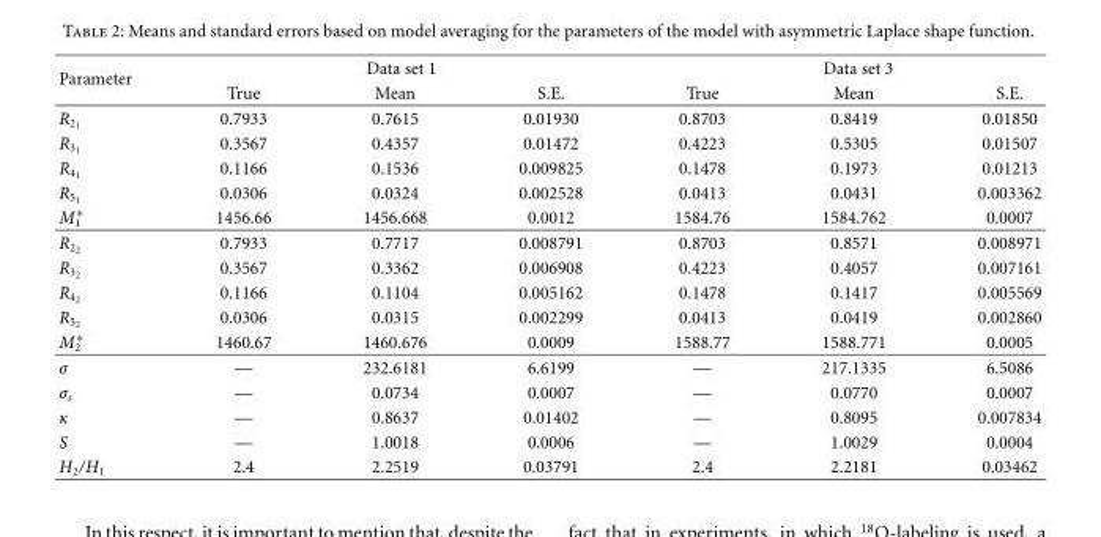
<table><thead><tr><td rowspan="2">Parameter</td><td colspan="3">Data set 1</td><td colspan="3">Data set 3</td></tr><tr><td>True</td><td>Mean</td><td>S.E.</td><td>True</td><td>Mean</td><td>S.E.</td></tr></thead><tbody><tr><td>R21</td><td>0.7933</td><td>0.7615</td><td>0.01930</td><td>0.8703</td><td>0.8419</td><td>0.01850</td></tr><tr><td>R31</td><td>0.3567</td><td>0.4357</td><td>0.01472</td><td>0.4223</td><td>0.5305</td><td>0.01507</td></tr><tr><td>R41</td><td>0.1166</td><td>0.1536</td><td>0.009825</td><td>0.1478</td><td>0.1973</td><td>0.01213</td></tr><tr><td>R51</td><td>0.0306</td><td>0.0324</td><td>0.002528</td><td>0.0413</td><td>0.0431</td><td>0.003362</td></tr><tr><td>M∗ 1</td><td>1456.66</td><td>1456.668</td><td>0.0012</td><td>1584.76</td><td>1584.762</td><td>0.0007</td></tr><tr><td>R22</td><td>0.7933</td><td>0.7717</td><td>0.008791</td><td>0.8703</td><td>0.8571</td><td>0.008971</td></tr><tr><td>R32</td><td>0.3567</td><td>0.3362</td><td>0.006908</td><td>0.4223</td><td>0.4057</td><td>0.007161</td></tr><tr><td>R42</td><td>0.1166</td><td>0.1104</td><td>0.005162</td><td>0.1478</td><td>0.1417</td><td>0.005569</td></tr><tr><td>R52</td><td>0.0306</td><td>0.0315</td><td>0.002299</td><td>0.0413</td><td>0.0419</td><td>0.002860</td></tr><tr><td>M∗ 2</td><td>1460.67</td><td>1460.676</td><td>0.0009</td><td>1588.77</td><td>1588.771</td><td>0.0005</td></tr><tr><td>σ</td><td>—</td><td>232.6181</td><td>6.6199</td><td>—</td><td>217.1335</td><td>6.5086</td></tr><tr><td>σ<sub>s</sub></td><td>—</td><td>0.0734</td><td>0.0007</td><td>—</td><td>0.0770</td><td>0.0007</td></tr><tr><td>κ</td><td>—</td><td>0.8637</td><td>0.01402</td><td>—</td><td>0.8095</td><td>0.007834</td></tr><tr><td>S</td><td>—</td><td>1.0018</td><td>0.0006</td><td>—</td><td>1.0029</td><td>0.0004</td></tr><tr><td>H<sub>2</sub>/H<sub>1</sub></td><td>2.4</td><td>2.2519</td><td>0.03791</td><td>2.4</td><td>2.2181</td><td>0.03462</td></tr></tbody></table>